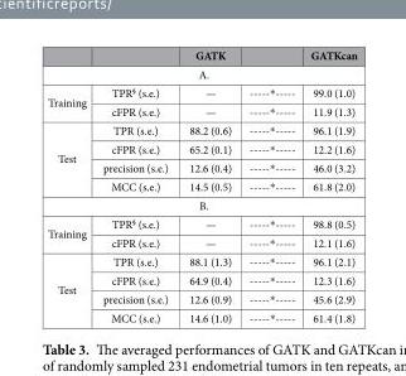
<table><thead><tr><td></td><td></td><td>GATK</td><td></td><td>GATKcan</td></tr></thead><tbody><tr><td colspan="5">A.</td></tr><tr><td rowspan="2">Training</td><td>TPR<sup>§</sup> (s.e.)</td><td>—</td><td>-----*-----</td><td>99.0 (1.0)</td></tr><tr><td>cFPR (s.e.)</td><td>—</td><td>-----*-----</td><td>11.9 (1.3)</td></tr><tr><td rowspan="4">Test</td><td>TPR (s.e.)</td><td>88.2 (0.6)</td><td>-----*-----</td><td>96.1 (1.9)</td></tr><tr><td>cFPR (s.e.)</td><td>65.2 (0.1)</td><td>-----*-----</td><td>12.2 (1.6)</td></tr><tr><td>precision (s.e.)</td><td>12.6 (0.4)</td><td>-----*-----</td><td>46.0 (3.2)</td></tr><tr><td>MCC (s.e.)</td><td>14.5 (0.5)</td><td>-----*-----</td><td>61.8 (2.0)</td></tr><tr><td colspan="5">B.</td></tr><tr><td rowspan="2">Training</td><td>TPR<sup>§</sup> (s.e.)</td><td>—</td><td>-----*-----</td><td>98.8 (0.5)</td></tr><tr><td>cFPR (s.e.)</td><td>—</td><td>-----*-----</td><td>12.1 (1.6)</td></tr><tr><td rowspan="4">Test</td><td>TPR (s.e.)</td><td>88.1 (1.3)</td><td>-----*-----</td><td>96.1 (2.1)</td></tr><tr><td>cFPR (s.e.)</td><td>64.9 (0.4)</td><td>-----*-----</td><td>12.3 (1.6)</td></tr><tr><td>precision (s.e.)</td><td>12.6 (0.9)</td><td>-----*-----</td><td>45.6 (2.9)</td></tr><tr><td>MCC (s.e.)</td><td>14.6 (1.0)</td><td>-----*-----</td><td>61.4 (1.8)</td></tr></tbody></table>